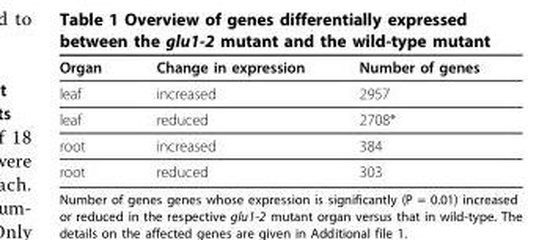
<table><thead><tr><td>Organ</td><td>Change in expression</td><td>Number of genes</td></tr></thead><tbody><tr><td>leaf</td><td>increased</td><td>2957</td></tr><tr><td>leaf</td><td>reduced</td><td>2708*</td></tr><tr><td>root</td><td>increased</td><td>384</td></tr><tr><td>root</td><td>reduced</td><td>303</td></tr></tbody></table>